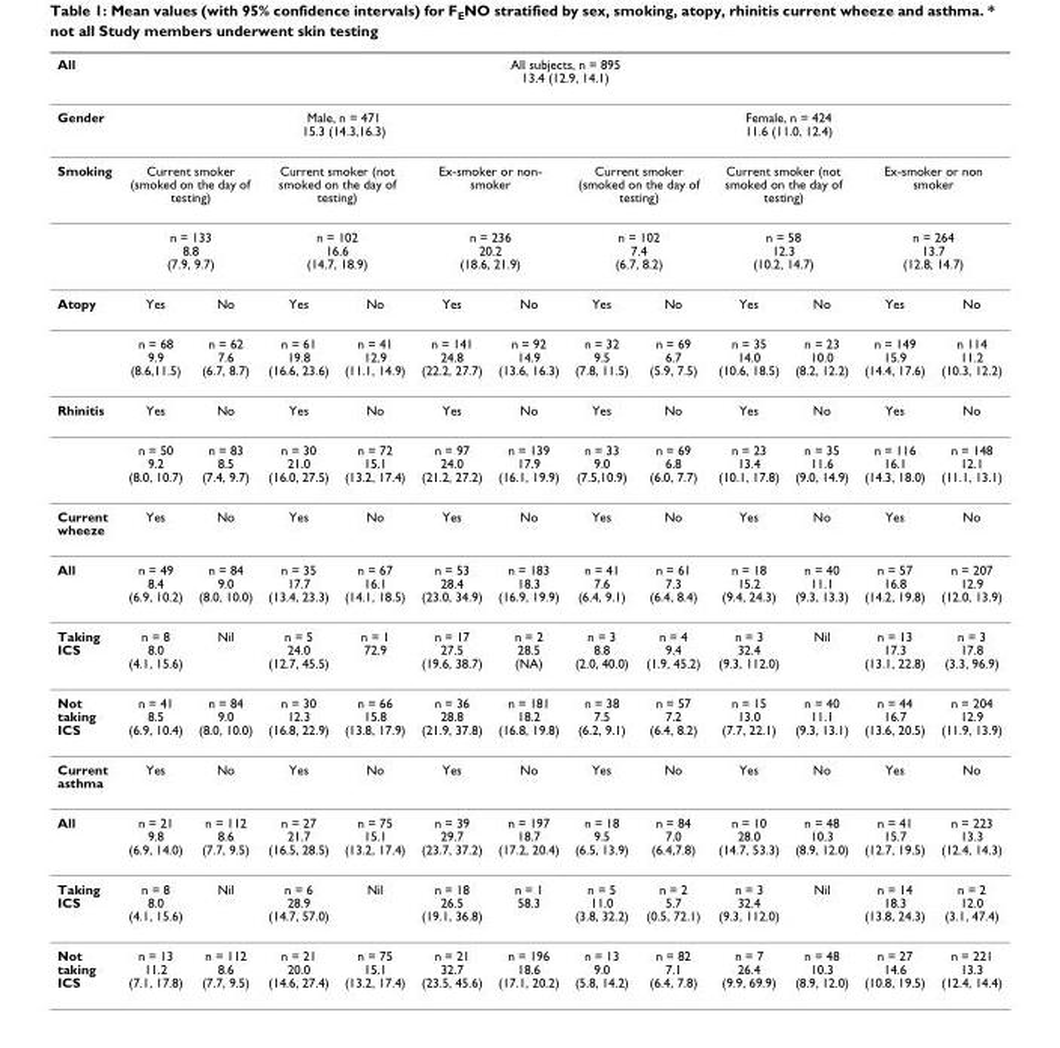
<table><thead><tr><td>All</td><td colspan="12">All subjects, n = 895 13.4 (12.9, 14.1)</td></tr></thead><tbody><tr><td>Gender</td><td colspan="6">Male, n = 471 15.3 (14.3,16.3)</td><td colspan="6">Female, n = 424 11.6 (11.0, 12.4)</td></tr><tr><td rowspan="2">Smoking</td><td colspan="2">Current smoker (smoked on the day of testing)</td><td colspan="2">Current smoker (not smoked on the day of testing)</td><td colspan="2">Ex-smoker or non- smoker</td><td colspan="2">Current smoker (smoked on the day of testing)</td><td colspan="2">Current smoker (not smoked on the day of testing)</td><td colspan="2">Ex-smoker or non smoker</td></tr><tr><td colspan="2">n = 133 8.8 (7.9, 9.7)</td><td colspan="2">n = 102 16.6 (14.7, 18.9)</td><td colspan="2">n = 236 20.2 (18.6, 21.9)</td><td colspan="2">n = 102 7.4 (6.7, 8.2)</td><td colspan="2">n = 58 12.3 (10.2, 14.7)</td><td colspan="2">n = 264 13.7 (12.8, 14.7)</td></tr><tr><td rowspan="2">Atopy</td><td>Yes</td><td>No</td><td>Yes</td><td>No</td><td>Yes</td><td>No</td><td>Yes</td><td>No</td><td>Yes</td><td>No</td><td>Yes</td><td>No</td></tr><tr><td>n = 68 9.9 (8.6,11.5)</td><td>n = 62 7.6 (6.7, 8.7)</td><td>n = 61 19.8 (16.6, 23.6)</td><td>n = 41 12.9 (11.1, 14.9)</td><td>n = 141 24.8 (22.2, 27.7)</td><td>n = 92 14.9 (13.6, 16.3)</td><td>n = 32 9.5 (7.8, 11.5)</td><td>n = 69 6.7 (5.9, 7.5)</td><td>n = 35 14.0 (10.6, 18.5)</td><td>n = 23 10.0 (8.2, 12.2)</td><td>n = 149 15.9 (14.4, 17.6)</td><td>n 114 11.2 (10.3, 12.2)</td></tr><tr><td rowspan="2">Rhinitis</td><td>Yes</td><td>No</td><td>Yes</td><td>No</td><td>Yes</td><td>No</td><td>Yes</td><td>No</td><td>Yes</td><td>No</td><td>Yes</td><td>No</td></tr><tr><td>n = 50 9.2 (8.0, 10.7)</td><td>n = 83 8.5 (7.4, 9.7)</td><td>n = 30 21.0 (16.0, 27.5)</td><td>n = 72 15.1 (13.2, 17.4)</td><td>n = 97 24.0 (21.2, 27.2)</td><td>n = 139 17.9 (16.1, 19.9)</td><td>n = 33 9.0 (7.5,10.9)</td><td>n = 69 6.8 (6.0, 7.7)</td><td>n = 23 13.4 (10.1, 17.8)</td><td>n = 35 11.6 (9.0, 14.9)</td><td>n = 116 16.1 (14.3, 18.0)</td><td>n = 148 12.1 (11.1, 13.1)</td></tr><tr><td>Current wheeze</td><td>Yes</td><td>No</td><td>Yes</td><td>No</td><td>Yes</td><td>No</td><td>Yes</td><td>No</td><td>Yes</td><td>No</td><td>Yes</td><td>No</td></tr><tr><td>All</td><td>n = 49 8.4 (6.9, 10.2)</td><td>n = 84 9.0 (8.0, 10.0)</td><td>n = 35 17.7 (13.4, 23.3)</td><td>n = 67 16.1 (14.1, 18.5)</td><td>n = 53 28.4 (23.0, 34.9)</td><td>n = 183 18.3 (16.9, 19.9)</td><td>n = 41 7.6 (6.4, 9.1)</td><td>n = 61 7.3 (6.4, 8.4)</td><td>n = 18 15.2 (9.4, 24.3)</td><td>n = 40 11.1 (9.3, 13.3)</td><td>n = 57 16.8 (14.2, 19.8)</td><td>n = 207 12.9 (12.0, 13.9)</td></tr><tr><td>Taking ICS</td><td>n = 8 8.0 (4.1, 15.6)</td><td>Nil</td><td>n = 5 24.0 (12.7, 45.5)</td><td>n = 1 72.9</td><td>n = 17 27.5 (19.6, 38.7)</td><td>n = 2 28.5 (NA)</td><td>n = 3 8.8 (2.0, 40.0)</td><td>n = 4 9.4 (1.9, 45.2)</td><td>n = 3 32.4 (9.3, 112.0)</td><td>Nil</td><td>n = 13 17.3 (13.1, 22.8)</td><td>n = 3 17.8 (3.3, 96.9)</td></tr><tr><td>Not taking ICS</td><td>n = 41 8.5 (6.9, 10.4)</td><td>n = 84 9.0 (8.0, 10.0)</td><td>n = 30 12.3 (16.8, 22.9)</td><td>n = 66 15.8 (13.8, 17.9)</td><td>n = 36 28.8 (21.9, 37.8)</td><td>n = 181 18.2 (16.8, 19.8)</td><td>n = 38 7.5 (6.2, 9.1)</td><td>n = 57 7.2 (6.4, 8.2)</td><td>n = 15 13.0 (7.7, 22.1)</td><td>n = 40 11.1 (9.3, 13.1)</td><td>n = 44 16.7 (13.6, 20.5)</td><td>n = 204 12.9 (11.9, 13.9)</td></tr><tr><td>Current asthma</td><td>Yes</td><td>No</td><td>Yes</td><td>No</td><td>Yes</td><td>No</td><td>Yes</td><td>No</td><td>Yes</td><td>No</td><td>Yes</td><td>No</td></tr><tr><td>All</td><td>n = 21 9.8 (6.9, 14.0)</td><td>n = 112 8.6 (7.7, 9.5)</td><td>n = 27 21.7 (16.5, 28.5)</td><td>n = 75 15.1 (13.2, 17.4)</td><td>n = 39 29.7 (23.7, 37.2)</td><td>n = 197 18.7 (17.2, 20.4)</td><td>n = 18 9.5 (6.5, 13.9)</td><td>n = 84 7.0 (6.4,7.8)</td><td>n = 10 28.0 (14.7, 53.3)</td><td>n = 48 10.3 (8.9, 12.0)</td><td>n = 41 15.7 (12.7, 19.5)</td><td>n = 223 13.3 (12.4, 14.3)</td></tr><tr><td>Taking ICS</td><td>n = 8 8.0 (4.1, 15.6)</td><td>Nil</td><td>n = 6 28.9 (14.7, 57.0)</td><td>Nil</td><td>n = 18 26.5 (19.1, 36.8)</td><td>n = 1 58.3</td><td>n = 5 11.0 (3.8, 32.2)</td><td>n = 2 5.7 (0.5, 72.1)</td><td>n = 3 32.4 (9.3, 112.0)</td><td>Nil</td><td>n = 14 18.3 (13.8, 24.3)</td><td>n = 2 12.0 (3.1, 47.4)</td></tr><tr><td>Not taking ICS</td><td>n = 13 11.2 (7.1, 17.8)</td><td>n = 112 8.6 (7.7, 9.5)</td><td>n = 21 20.0 (14.6, 27.4)</td><td>n = 75 15.1 (13.2, 17.4)</td><td>n = 21 32.7 (23.5, 45.6)</td><td>n = 196 18.6 (17.1, 20.2)</td><td>n = 13 9.0 (5.8, 14.2)</td><td>n = 82 7.1 (6.4, 7.8)</td><td>n = 7 26.4 (9.9, 69.9)</td><td>n = 48 10.3 (8.9, 12.0)</td><td>n = 27 14.6 (10.8, 19.5)</td><td>n = 221 13.3 (12.4, 14.4)</td></tr></tbody></table>